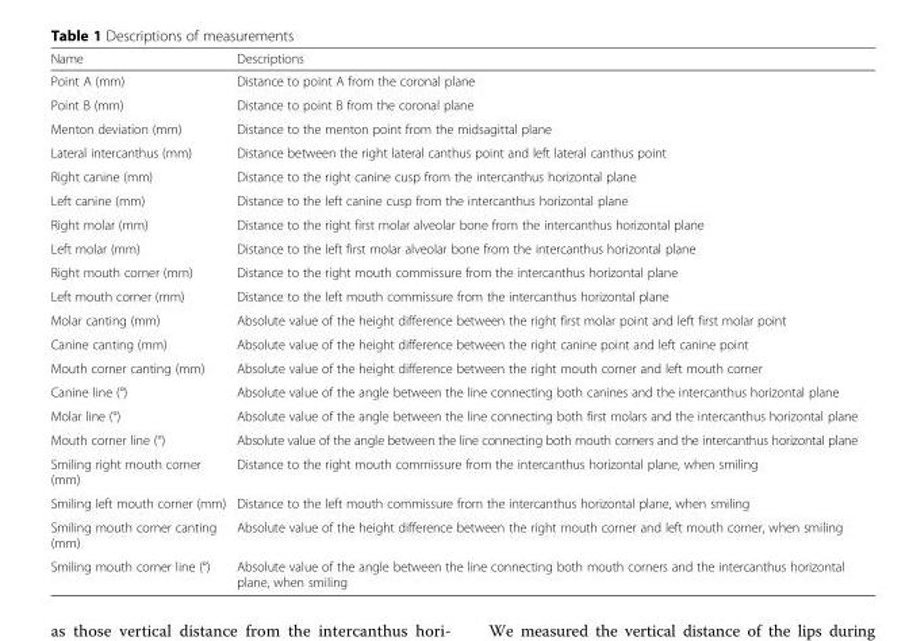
<table><thead><tr><td>Name</td><td>Descriptions</td></tr></thead><tbody><tr><td>Point A (mm)</td><td>Distance to point A from the coronal plane</td></tr><tr><td>Point B (mm)</td><td>Distance to point B from the coronal plane</td></tr><tr><td>Menton deviation (mm)</td><td>Distance to the menton point from the midsagittal plane</td></tr><tr><td>Lateral intercanthus (mm)</td><td>Distance between the right lateral canthus point and left lateral canthus point</td></tr><tr><td>Right canine (mm)</td><td>Distance to the right canine cusp from the intercanthus horizontal plane</td></tr><tr><td>Left canine (mm)</td><td>Distance to the left canine cusp from the intercanthus horizontal plane</td></tr><tr><td>Right molar (mm)</td><td>Distance to the right first molar alveolar bone from the intercanthus horizontal plane</td></tr><tr><td>Left molar (mm)</td><td>Distance to the left first molar alveolar bone from the intercanthus horizontal plane</td></tr><tr><td>Right mouth corner (mm)</td><td>Distance to the right mouth commissure from the intercanthus horizontal plane</td></tr><tr><td>Left mouth corner (mm)</td><td>Distance to the left mouth commissure from the intercanthus horizontal plane</td></tr><tr><td>Molar canting (mm)</td><td>Absolute value of the height difference between the right first molar point and left first molar point</td></tr><tr><td>Canine canting (mm)</td><td>Absolute value of the height difference between the right canine point and left canine point</td></tr><tr><td>Mouth corner canting (mm)</td><td>Absolute value of the height difference between the right mouth corner and left mouth corner</td></tr><tr><td>Canine line (°)</td><td>Absolute value of the angle between the line connecting both canines and the intercanthus horizontal plane</td></tr><tr><td>Molar line (°)</td><td>Absolute value of the angle between the line connecting both first molars and the intercanthus horizontal plane</td></tr><tr><td>Mouth corner line (°)</td><td>Absolute value of the angle between the line connecting both mouth corners and the intercanthus horizontal plane</td></tr><tr><td>Smiling right mouth corner (mm)</td><td>Distance to the right mouth commissure from the intercanthus horizontal plane, when smiling</td></tr><tr><td>Smiling left mouth corner (mm)</td><td>Distance to the left mouth commissure from the intercanthus horizontal plane, when smiling</td></tr><tr><td>Smiling mouth corner canting (mm)</td><td>Absolute value of the height difference between the right mouth corner and left mouth corner, when smiling</td></tr><tr><td>Smiling mouth corner line (°)</td><td>Absolute value of the angle between the line connecting both mouth corners and the intercanthus horizontal plane, when smiling</td></tr></tbody></table>